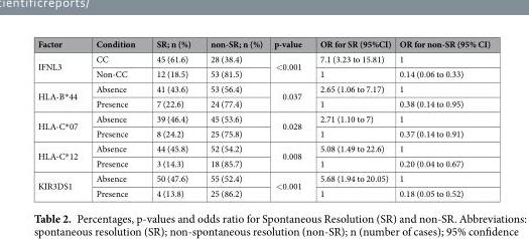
<table><thead><tr><td>Factor</td><td>Condition</td><td>SR; n (%)</td><td>non-SR; n (%)</td><td>p-value</td><td>OR for SR (95%CI)</td><td>OR for non-SR (95% CI)</td></tr></thead><tbody><tr><td rowspan="2">IFNL3</td><td>CC</td><td>45 (61.6)</td><td>28 (38.4)</td><td rowspan="2">&lt;0.001</td><td>7.1 (3.23 to 15.81)</td><td>1</td></tr><tr><td>Non-CC</td><td>12 (18.5)</td><td>53 (81.5)</td><td>1</td><td>0.14 (0.06 to 0.33)</td></tr><tr><td rowspan="2">HLA-B*44</td><td>Absence</td><td>41 (43.6)</td><td>53 (56.4)</td><td rowspan="2">0.037</td><td>2.65 (1.06 to 7.17)</td><td>1</td></tr><tr><td>Presence</td><td>7 (22.6)</td><td>24 (77.4)</td><td>1</td><td>0.38 (0.14 to 0.95)</td></tr><tr><td rowspan="2">HLA-C*07</td><td>Absence</td><td>39 (46.4)</td><td>45 (53.6)</td><td rowspan="2">0.028</td><td>2.71 (1.10 to 7)</td><td>1</td></tr><tr><td>Presence</td><td>8 (24.2)</td><td>25 (75.8)</td><td>1</td><td>0.37 (0.14 to 0.91)</td></tr><tr><td rowspan="2">HLA-C*12</td><td>Absence</td><td>44 (45.8)</td><td>52 (54.2)</td><td rowspan="2">0.008</td><td>5.08 (1.49 to 22.6)</td><td>1</td></tr><tr><td>Presence</td><td>3 (14.3)</td><td>18 (85.7)</td><td>1</td><td>0.20 (0.04 to 0.67)</td></tr><tr><td rowspan="2">KIR3DS1</td><td>Absence</td><td>50 (47.6)</td><td>55 (52.4)</td><td rowspan="2">&lt;0.001</td><td>5.68 (1.94 to 20.05)</td><td>1</td></tr><tr><td>Presence</td><td>4 (13.8)</td><td>25 (86.2)</td><td>1</td><td>0.18 (0.05 to 0.52)</td></tr></tbody></table>